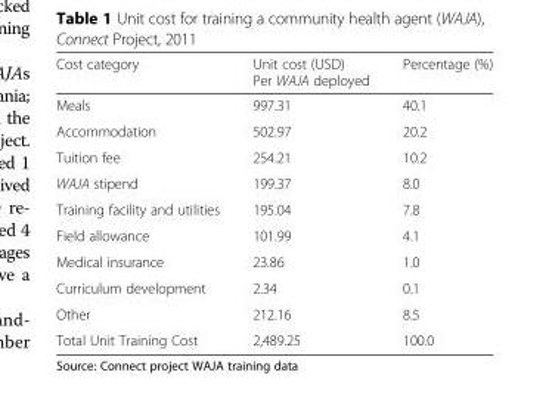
<table><thead><tr><td>Cost category</td><td>Unit cost (USD) Per WAJA deployed</td><td>Percentage (%)</td></tr></thead><tbody><tr><td>Meals</td><td>997.31</td><td>40.1</td></tr><tr><td>Accommodation</td><td>502.97</td><td>20.2</td></tr><tr><td>Tuition fee</td><td>254.21</td><td>10.2</td></tr><tr><td>WAJA stipend</td><td>199.37</td><td>8.0</td></tr><tr><td>Training facility and utilities</td><td>195.04</td><td>7.8</td></tr><tr><td>Field allowance</td><td>101.99</td><td>4.1</td></tr><tr><td>Medical insurance</td><td>23.86</td><td>1.0</td></tr><tr><td>Curriculum development</td><td>2.34</td><td>0.1</td></tr><tr><td>Other</td><td>212.16</td><td>8.5</td></tr><tr><td>Total Unit Training Cost</td><td>2,489.25</td><td>100.0</td></tr></tbody></table>